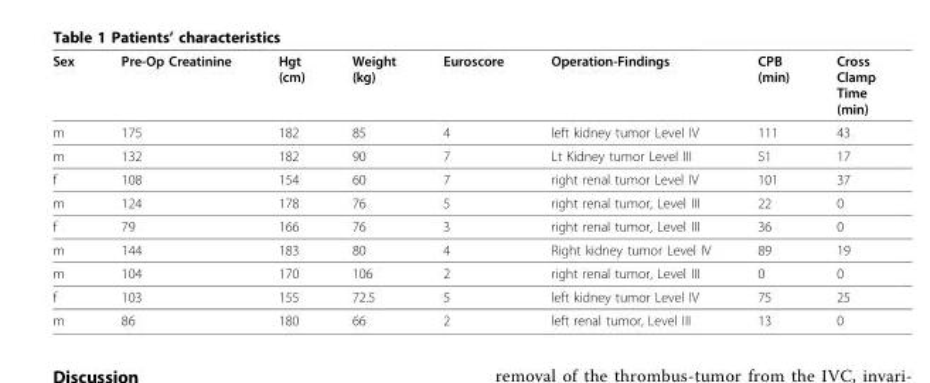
<table><thead><tr><td>Sex</td><td>Pre-Op Creatinine</td><td>Hgt (cm)</td><td>Weight (kg)</td><td>Euroscore</td><td>Operation-Findings</td><td>CPB (min)</td><td>Cross Clamp Time (min)</td></tr></thead><tbody><tr><td>m</td><td>175</td><td>182</td><td>85</td><td>4</td><td>left kidney tumor Level IV</td><td>111</td><td>43</td></tr><tr><td>m</td><td>132</td><td>182</td><td>90</td><td>7</td><td>Lt Kidney tumor Level III</td><td>51</td><td>17</td></tr><tr><td>f</td><td>108</td><td>154</td><td>60</td><td>7</td><td>right renal tumor Level IV</td><td>101</td><td>37</td></tr><tr><td>m</td><td>124</td><td>178</td><td>76</td><td>5</td><td>right renal tumor, Level III</td><td>22</td><td>0</td></tr><tr><td>f</td><td>79</td><td>166</td><td>76</td><td>3</td><td>right renal tumor, Level III</td><td>36</td><td>0</td></tr><tr><td>m</td><td>144</td><td>183</td><td>80</td><td>4</td><td>Right kidney tumor Level IV</td><td>89</td><td>19</td></tr><tr><td>m</td><td>104</td><td>170</td><td>106</td><td>2</td><td>right renal tumor, Level III</td><td>0</td><td>0</td></tr><tr><td>f</td><td>103</td><td>155</td><td>72.5</td><td>5</td><td>left kidney tumor Level IV</td><td>75</td><td>25</td></tr><tr><td>m</td><td>86</td><td>180</td><td>66</td><td>2</td><td>left renal tumor, Level III</td><td>13</td><td>0</td></tr></tbody></table>